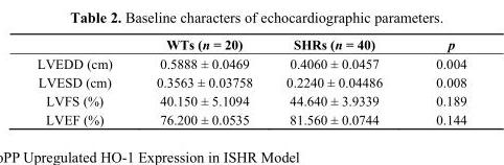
<table><thead><tr><td></td><td>WTs (n = 20)</td><td>SHRs (n = 40)</td><td>p</td></tr></thead><tbody><tr><td>LVEDD (cm)</td><td>0.5888 ± 0.0469</td><td>0.4060 ± 0.0457</td><td>0.004</td></tr><tr><td>LVESD (cm)</td><td>0.3563 ± 0.03758</td><td>0.2240 ± 0.04486</td><td>0.008</td></tr><tr><td>LVFS (%)</td><td>40.150 ± 5.1094</td><td>44.640 ± 3.9339</td><td>0.189</td></tr><tr><td>LVEF (%)</td><td>76.200 ± 0.0535</td><td>81.560 ± 0.0744</td><td>0.144</td></tr></tbody></table>